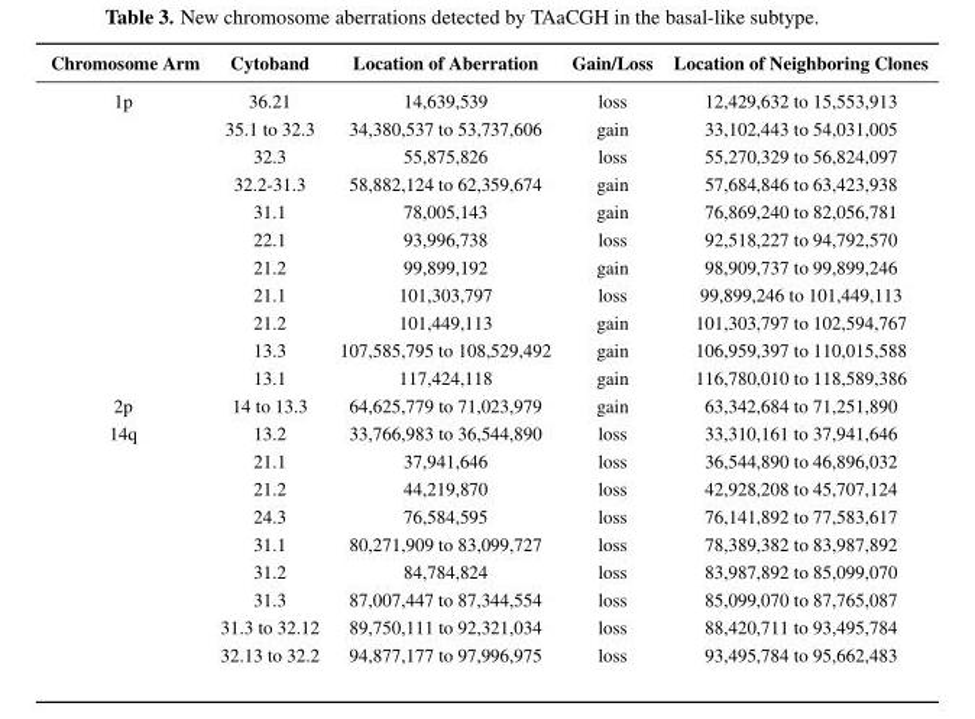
<table><thead><tr><td>Chromosome Arm</td><td>Cytoband</td><td>Location of Aberration</td><td>Gain/Loss</td><td>Location of Neighboring Clones</td></tr></thead><tbody><tr><td rowspan="11">1p</td><td>36.21</td><td>14,639,539</td><td>loss</td><td>12,429,632 to 15,553,913</td></tr><tr><td>35.1 to 32.3</td><td>34,380,537 to 53,737,606</td><td>gain</td><td>33,102,443 to 54,031,005</td></tr><tr><td>32.3</td><td>55,875,826</td><td>loss</td><td>55,270,329 to 56,824,097</td></tr><tr><td>32.2-31.3</td><td>58,882,124 to 62,359,674</td><td>gain</td><td>57,684,846 to 63,423,938</td></tr><tr><td>31.1</td><td>78,005,143</td><td>gain</td><td>76,869,240 to 82,056,781</td></tr><tr><td>22.1</td><td>93,996,738</td><td>loss</td><td>92,518,227 to 94,792,570</td></tr><tr><td>21.2</td><td>99,899,192</td><td>gain</td><td>98,909,737 to 99,899,246</td></tr><tr><td>21.1</td><td>101,303,797</td><td>loss</td><td>99,899,246 to 101,449,113</td></tr><tr><td>21.2</td><td>101,449,113</td><td>gain</td><td>101,303,797 to 102,594,767</td></tr><tr><td>13.3</td><td>107,585,795 to 108,529,492</td><td>gain</td><td>106,959,397 to 110,015,588</td></tr><tr><td>13.1</td><td>117,424,118</td><td>gain</td><td>116,780,010 to 118,589,386</td></tr><tr><td>2p</td><td>14 to 13.3</td><td>64,625,779 to 71,023,979</td><td>gain</td><td>63,342,684 to 71,251,890</td></tr><tr><td rowspan="9">14q</td><td>13.2</td><td>33,766,983 to 36,544,890</td><td>loss</td><td>33,310,161 to 37,941,646</td></tr><tr><td>21.1</td><td>37,941,646</td><td>loss</td><td>36,544,890 to 46,896,032</td></tr><tr><td>21.2</td><td>44,219,870</td><td>loss</td><td>42,928,208 to 45,707,124</td></tr><tr><td>24.3</td><td>76,584,595</td><td>loss</td><td>76,141,892 to 77,583,617</td></tr><tr><td>31.1</td><td>80,271,909 to 83,099,727</td><td>loss</td><td>78,389,382 to 83,987,892</td></tr><tr><td>31.2</td><td>84,784,824</td><td>loss</td><td>83,987,892 to 85,099,070</td></tr><tr><td>31.3</td><td>87,007,447 to 87,344,554</td><td>loss</td><td>85,099,070 to 87,765,087</td></tr><tr><td>31.3 to 32.12</td><td>89,750,111 to 92,321,034</td><td>loss</td><td>88,420,711 to 93,495,784</td></tr><tr><td>32.13 to 32.2</td><td>94,877,177 to 97,996,975</td><td>loss</td><td>93,495,784 to 95,662,483</td></tr></tbody></table>